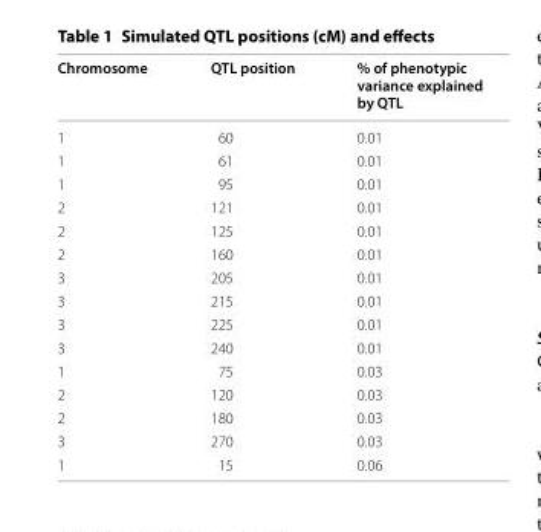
<table><thead><tr><td>Chromosome</td><td>QTL position</td><td>% of phenotypic variance explained by QTL</td></tr></thead><tbody><tr><td>1</td><td>60</td><td>0.01</td></tr><tr><td>1</td><td>61</td><td>0.01</td></tr><tr><td>1</td><td>95</td><td>0.01</td></tr><tr><td>2</td><td>121</td><td>0.01</td></tr><tr><td>2</td><td>125</td><td>0.01</td></tr><tr><td>2</td><td>160</td><td>0.01</td></tr><tr><td>3</td><td>205</td><td>0.01</td></tr><tr><td>3</td><td>215</td><td>0.01</td></tr><tr><td>3</td><td>225</td><td>0.01</td></tr><tr><td>3</td><td>240</td><td>0.01</td></tr><tr><td>1</td><td>75</td><td>0.03</td></tr><tr><td>2</td><td>120</td><td>0.03</td></tr><tr><td>2</td><td>180</td><td>0.03</td></tr><tr><td>3</td><td>270</td><td>0.03</td></tr><tr><td>1</td><td>15</td><td>0.06</td></tr></tbody></table>